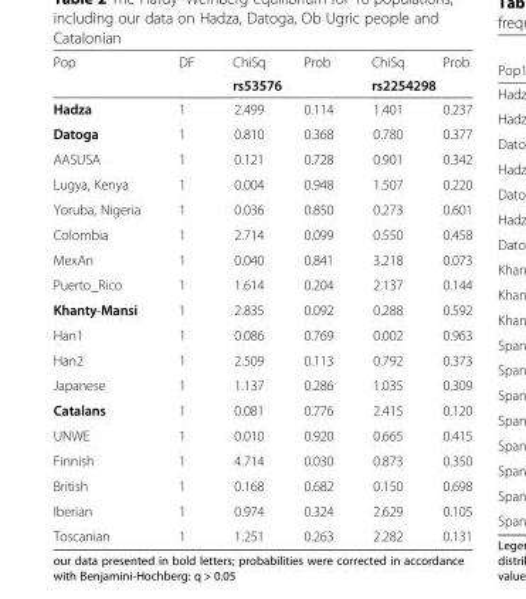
<table><thead><tr><td rowspan="2">Pop</td><td rowspan="2">DF</td><td>ChiSq</td><td>Prob</td><td>ChiSq</td><td>Prob</td></tr><tr><td colspan="2">rs53576</td><td colspan="2">rs2254298</td></tr></thead><tbody><tr><td>Hadza</td><td>1</td><td>2.499</td><td>0.114</td><td>1.401</td><td>0.237</td></tr><tr><td>Datoga</td><td>1</td><td>0.810</td><td>0.368</td><td>0.780</td><td>0.377</td></tr><tr><td>AASUSA</td><td>1</td><td>0.121</td><td>0.728</td><td>0.901</td><td>0.342</td></tr><tr><td>Lugya, Kenya</td><td>1</td><td>0.004</td><td>0.948</td><td>1.507</td><td>0.220</td></tr><tr><td>Yoruba, Nigeria</td><td>1</td><td>0.036</td><td>0.850</td><td>0.273</td><td>0.601</td></tr><tr><td>Colombia</td><td>1</td><td>2.714</td><td>0.099</td><td>0.550</td><td>0.458</td></tr><tr><td>MexAn</td><td>1</td><td>0.040</td><td>0.841</td><td>3.218</td><td>0.073</td></tr><tr><td>Puerto_Rico</td><td>1</td><td>1.614</td><td>0.204</td><td>2.137</td><td>0.144</td></tr><tr><td>Khanty-Mansi</td><td>1</td><td>2.835</td><td>0.092</td><td>0.288</td><td>0.592</td></tr><tr><td>Han1</td><td>1</td><td>0.086</td><td>0.769</td><td>0.002</td><td>0.963</td></tr><tr><td>Han2</td><td>1</td><td>2.509</td><td>0.113</td><td>0.792</td><td>0.373</td></tr><tr><td>Japanese</td><td>1</td><td>1.137</td><td>0.286</td><td>1.035</td><td>0.309</td></tr><tr><td>Catalans</td><td>1</td><td>0.081</td><td>0.776</td><td>2.415</td><td>0.120</td></tr><tr><td>UNWE</td><td>1</td><td>0.010</td><td>0.920</td><td>0.665</td><td>0.415</td></tr><tr><td>Finnish</td><td>1</td><td>4.714</td><td>0.030</td><td>0.873</td><td>0.350</td></tr><tr><td>British</td><td>1</td><td>0.168</td><td>0.682</td><td>0.150</td><td>0.698</td></tr><tr><td>Iberian</td><td>1</td><td>0.974</td><td>0.324</td><td>2.629</td><td>0.105</td></tr><tr><td>Toscanian</td><td>1</td><td>1.251</td><td>0.263</td><td>2.282</td><td>0.131</td></tr></tbody></table>